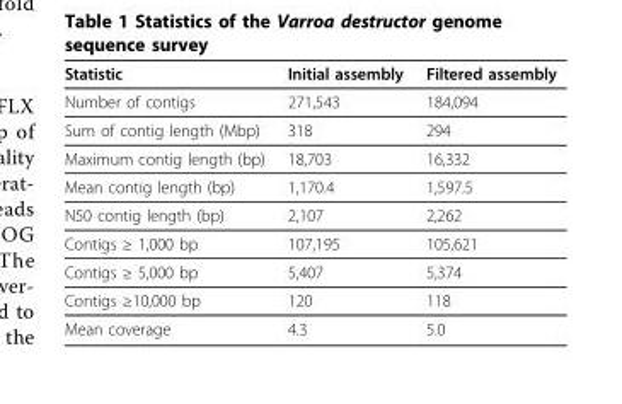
<table><thead><tr><td>Statistic</td><td>Initial assembly</td><td>Filtered assembly</td></tr></thead><tbody><tr><td>Number of contigs</td><td>271,543</td><td>184,094</td></tr><tr><td>Sum of contig length (Mbp)</td><td>318</td><td>294</td></tr><tr><td>Maximum contig length (bp)</td><td>18,703</td><td>16,332</td></tr><tr><td>Mean contig length (bp)</td><td>1,170.4</td><td>1,597.5</td></tr><tr><td>N50 contig length (bp)</td><td>2,107</td><td>2,262</td></tr><tr><td>Contigs ≥ 1,000 bp</td><td>107,195</td><td>105,621</td></tr><tr><td>Contigs ≥ 5,000 bp</td><td>5,407</td><td>5,374</td></tr><tr><td>Contigs ≥10,000 bp</td><td>120</td><td>118</td></tr><tr><td>Mean coverage</td><td>4.3</td><td>5.0</td></tr></tbody></table>